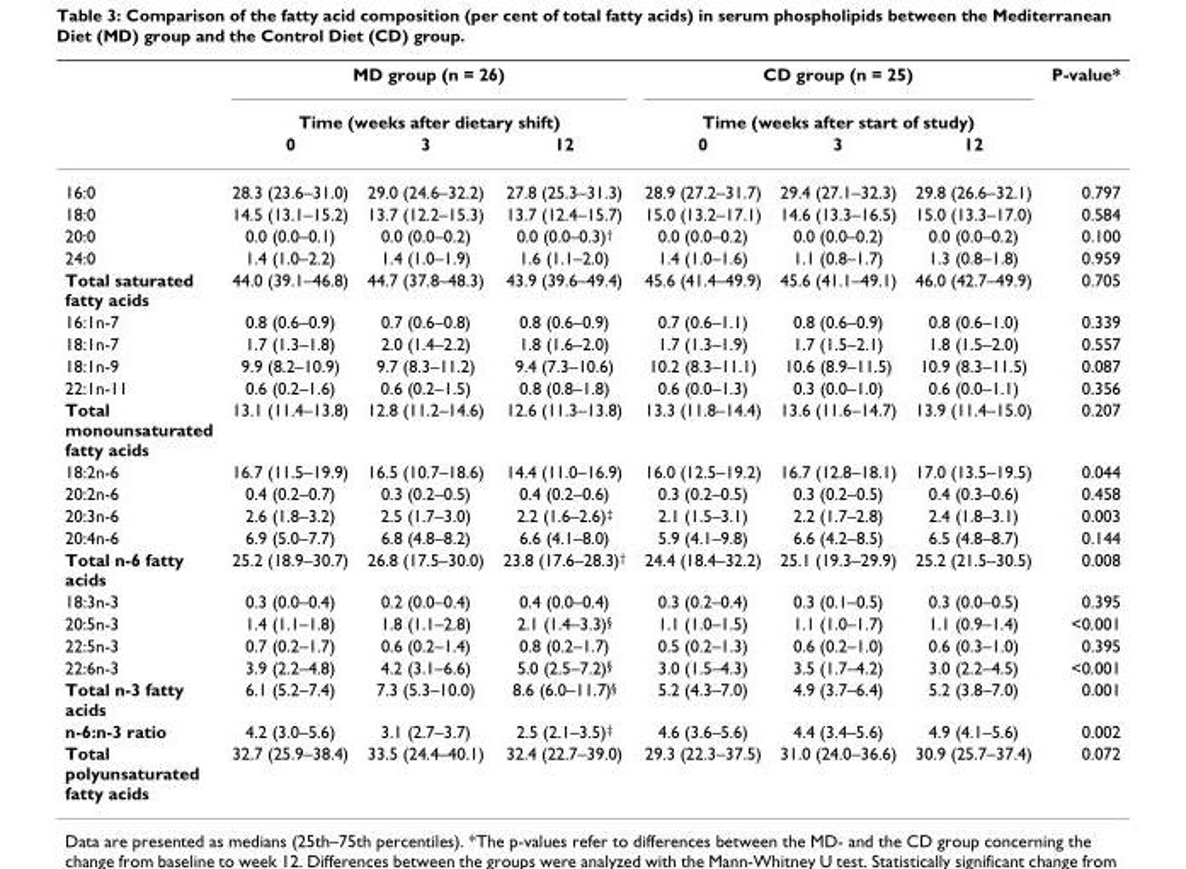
<table><thead><tr><td rowspan="3"></td><td rowspan="2" colspan="3">MD group (n = 26) Time (weeks after dietary shift)</td><td rowspan="2" colspan="3">CD group (n = 25) Time (weeks after start of study)</td><td rowspan="3">P-value*</td></tr><tr></tr><tr><td>0</td><td>3</td><td>12</td><td>0</td><td>3</td><td>12</td></tr></thead><tbody><tr><td>16:0</td><td>28.3 (23.6–31.0)</td><td>29.0 (24.6–32.2)</td><td>27.8 (25.3–31.3)</td><td>28.9 (27.2–31.7)</td><td>29.4 (27.1–32.3)</td><td>29.8 (26.6–32.1)</td><td>0.797</td></tr><tr><td>18:0</td><td>14.5 (13.1–15.2)</td><td>13.7 (12.2–15.3)</td><td>13.7 (12.4–15.7)</td><td>15.0 (13.2–17.1)</td><td>14.6 (13.3–16.5)</td><td>15.0 (13.3–17.0)</td><td>0.584</td></tr><tr><td>20:0</td><td>0.0 (0.0–0.1)</td><td>0.0 (0.0–0.2)</td><td>0.0 (0.0–0.3)<sup>†</sup></td><td>0.0 (0.0–0.2)</td><td>0.0 (0.0–0.2)</td><td>0.0 (0.0–0.2)</td><td>0.100</td></tr><tr><td>24:0</td><td>1.4 (1.0–2.2)</td><td>1.4 (1.0–1.9)</td><td>1.6 (1.1–2.0)</td><td>1.4 (1.0–1.6)</td><td>1.1 (0.8–1.7)</td><td>1.3 (0.8–1.8)</td><td>0.959</td></tr><tr><td>Total saturated fatty acids</td><td>44.0 (39.1–46.8)</td><td>44.7 (37.8–48.3)</td><td>43.9 (39.6–49.4)</td><td>45.6 (41.4–49.9)</td><td>45.6 (41.1–49.1)</td><td>46.0 (42.7–49.9)</td><td>0.705</td></tr><tr><td>16:1n-7</td><td>0.8 (0.6–0.9)</td><td>0.7 (0.6–0.8)</td><td>0.8 (0.6–0.9)</td><td>0.7 (0.6–1.1)</td><td>0.8 (0.6–0.9)</td><td>0.8 (0.6–1.0)</td><td>0.339</td></tr><tr><td>18:1n-7</td><td>1.7 (1.3–1.8)</td><td>2.0 (1.4–2.2)</td><td>1.8 (1.6–2.0)</td><td>1.7 (1.3–1.9)</td><td>1.7 (1.5–2.1)</td><td>1.8 (1.5–2.0)</td><td>0.557</td></tr><tr><td>18:1n-9</td><td>9.9 (8.2–10.9)</td><td>9.7 (8.3–11.2)</td><td>9.4 (7.3–10.6)</td><td>10.2 (8.3–11.1)</td><td>10.6 (8.9–11.5)</td><td>10.9 (8.3–11.5)</td><td>0.087</td></tr><tr><td>22:1n-11</td><td>0.6 (0.2–1.6)</td><td>0.6 (0.2–1.5)</td><td>0.8 (0.8–1.8)</td><td>0.6 (0.0–1.3)</td><td>0.3 (0.0–1.0)</td><td>0.6 (0.0–1.1)</td><td>0.356</td></tr><tr><td>Total monounsaturated fatty acids</td><td>13.1 (11.4–13.8)</td><td>12.8 (11.2–14.6)</td><td>12.6 (11.3–13.8)</td><td>13.3 (11.8–14.4)</td><td>13.6 (11.6–14.7)</td><td>13.9 (11.4–15.0)</td><td>0.207</td></tr><tr><td>18:2n-6</td><td>16.7 (11.5–19.9)</td><td>16.5 (10.7–18.6)</td><td>14.4 (11.0–16.9)</td><td>16.0 (12.5–19.2)</td><td>16.7 (12.8–18.1)</td><td>17.0 (13.5–19.5)</td><td>0.044</td></tr><tr><td>20:2n-6</td><td>0.4 (0.2–0.7)</td><td>0.3 (0.2–0.5)</td><td>0.4 (0.2–0.6)</td><td>0.3 (0.2–0.5)</td><td>0.3 (0.2–0.5)</td><td>0.4 (0.3–0.6)</td><td>0.458</td></tr><tr><td>20:3n-6</td><td>2.6 (1.8–3.2)</td><td>2.5 (1.7–3.0)</td><td>2.2 (1.6–2.6)<sup>‡</sup></td><td>2.1 (1.5–3.1)</td><td>2.2 (1.7–2.8)</td><td>2.4 (1.8–3.1)</td><td>0.003</td></tr><tr><td>20:4n-6</td><td>6.9 (5.0–7.7)</td><td>6.8 (4.8–8.2)</td><td>6.6 (4.1–8.0)</td><td>5.9 (4.1–9.8)</td><td>6.6 (4.2–8.5)</td><td>6.5 (4.8–8.7)</td><td>0.144</td></tr><tr><td>Total n-6 fatty acids</td><td>25.2 (18.9–30.7)</td><td>26.8 (17.5–30.0)</td><td>23.8 (17.6–28.3)<sup>†</sup></td><td>24.4 (18.4–32.2)</td><td>25.1 (19.3–29.9)</td><td>25.2 (21.5–30.5)</td><td>0.008</td></tr><tr><td>18:3n-3</td><td>0.3 (0.0–0.4)</td><td>0.2 (0.0–0.4)</td><td>0.4 (0.0–0.4)</td><td>0.3 (0.2–0.4)</td><td>0.3 (0.1–0.5)</td><td>0.3 (0.0–0.5)</td><td>0.395</td></tr><tr><td>20:5n-3</td><td>1.4 (1.1–1.8)</td><td>1.8 (1.1–2.8)</td><td>2.1 (1.4–3.3)<sup>§</sup></td><td>1.1 (1.0–1.5)</td><td>1.1 (1.0–1.7)</td><td>1.1 (0.9–1.4)</td><td>&lt;0.001</td></tr><tr><td>22:5n-3</td><td>0.7 (0.2–1.7)</td><td>0.6 (0.2–1.4)</td><td>0.8 (0.2–1.7)</td><td>0.5 (0.2–1.3)</td><td>0.6 (0.2–1.0)</td><td>0.6 (0.3–1.0)</td><td>0.395</td></tr><tr><td>22:6n-3</td><td>3.9 (2.2–4.8)</td><td>4.2 (3.1–6.6)</td><td>5.0 (2.5–7.2)<sup>§</sup></td><td>3.0 (1.5–4.3)</td><td>3.5 (1.7–4.2)</td><td>3.0 (2.2–4.5)</td><td>&lt;0.001</td></tr><tr><td>Total n-3 fatty acids</td><td>6.1 (5.2–7.4)</td><td>7.3 (5.3–10.0)</td><td>8.6 (6.0–11.7)<sup>§</sup></td><td>5.2 (4.3–7.0)</td><td>4.9 (3.7–6.4)</td><td>5.2 (3.8–7.0)</td><td>0.001</td></tr><tr><td>n-6:n-3 ratio</td><td>4.2 (3.0–5.6)</td><td>3.1 (2.7–3.7)</td><td>2.5 (2.1–3.5)<sup>‡</sup></td><td>4.6 (3.6–5.6)</td><td>4.4 (3.4–5.6)</td><td>4.9 (4.1–5.6)</td><td>0.002</td></tr><tr><td>Total polyunsaturated fatty acids</td><td>32.7 (25.9–38.4)</td><td>33.5 (24.4–40.1)</td><td>32.4 (22.7–39.0)</td><td>29.3 (22.3–37.5)</td><td>31.0 (24.0–36.6)</td><td>30.9 (25.7–37.4)</td><td>0.072</td></tr></tbody></table>